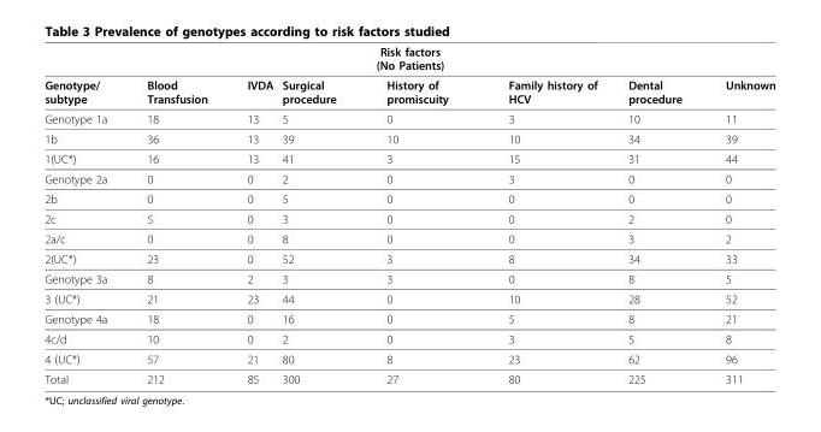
<table><thead><tr><td colspan="8">Risk factors (No Patients)</td></tr><tr><td>Genotype/ subtype</td><td>Blood Transfusion</td><td>IVDA</td><td>Surgical procedure</td><td>History of promiscuity</td><td>Family history of HCV</td><td>Dental procedure</td><td>Unknown</td></tr></thead><tbody><tr><td>Genotype 1a</td><td>18</td><td>13</td><td>5</td><td>0</td><td>3</td><td>10</td><td>11</td></tr><tr><td>1b</td><td>36</td><td>13</td><td>39</td><td>10</td><td>10</td><td>34</td><td>39</td></tr><tr><td>1(UC*)</td><td>16</td><td>13</td><td>41</td><td>3</td><td>15</td><td>31</td><td>44</td></tr><tr><td>Genotype 2a</td><td>0</td><td>0</td><td>2</td><td>0</td><td>3</td><td>0</td><td>0</td></tr><tr><td>2b</td><td>0</td><td>0</td><td>5</td><td>0</td><td>0</td><td>0</td><td>0</td></tr><tr><td>2c</td><td>5</td><td>0</td><td>3</td><td>0</td><td>0</td><td>2</td><td>0</td></tr><tr><td>2a/c</td><td>0</td><td>0</td><td>8</td><td>0</td><td>0</td><td>3</td><td>2</td></tr><tr><td>2(UC*)</td><td>23</td><td>0</td><td>52</td><td>3</td><td>8</td><td>34</td><td>33</td></tr><tr><td>Genotype 3a</td><td>8</td><td>2</td><td>3</td><td>3</td><td>0</td><td>8</td><td>5</td></tr><tr><td>3 (UC*)</td><td>21</td><td>23</td><td>44</td><td>0</td><td>10</td><td>28</td><td>52</td></tr><tr><td>Genotype 4a</td><td>18</td><td>0</td><td>16</td><td>0</td><td>5</td><td>8</td><td>21</td></tr><tr><td>4c/d</td><td>10</td><td>0</td><td>2</td><td>0</td><td>3</td><td>5</td><td>8</td></tr><tr><td>4 (UC*)</td><td>57</td><td>21</td><td>80</td><td>8</td><td>23</td><td>62</td><td>96</td></tr><tr><td>Total</td><td>212</td><td>85</td><td>300</td><td>27</td><td>80</td><td>225</td><td>311</td></tr></tbody></table>